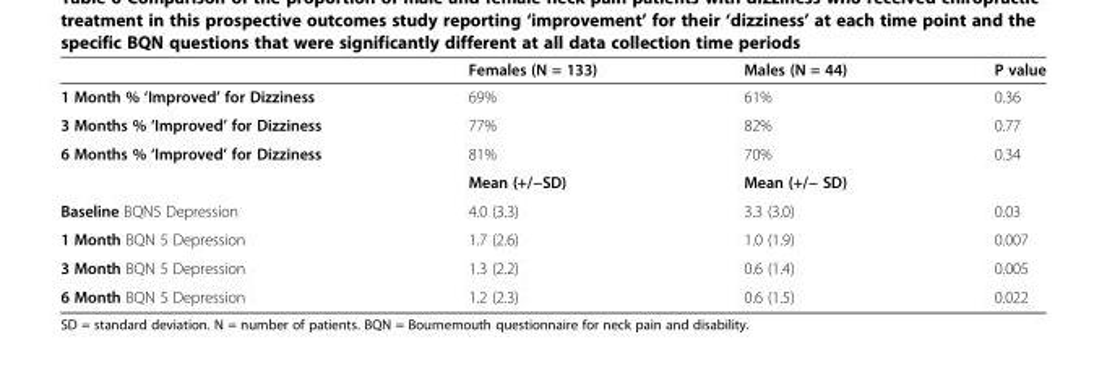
<table><thead><tr><td></td><td>Females (N = 133)</td><td>Males (N = 44)</td><td>P value</td></tr></thead><tbody><tr><td>1 Month % ‘Improved’ for Dizziness</td><td>69%</td><td>61%</td><td>0.36</td></tr><tr><td>3 Months % ‘Improved’ for Dizziness</td><td>77%</td><td>82%</td><td>0.77</td></tr><tr><td rowspan="2">6 Months % ‘Improved’ for Dizziness</td><td>81%</td><td>70%</td><td>0.34</td></tr><tr><td>Mean (+/−SD)</td><td>Mean (+/− SD)</td><td></td></tr><tr><td>Baseline BQN5 Depression</td><td>4.0 (3.3)</td><td>3.3 (3.0)</td><td>0.03</td></tr><tr><td>1 Month BQN 5 Depression</td><td>1.7 (2.6)</td><td>1.0 (1.9)</td><td>0.007</td></tr><tr><td>3 Month BQN 5 Depression</td><td>1.3 (2.2)</td><td>0.6 (1.4)</td><td>0.005</td></tr><tr><td>6 Month BQN 5 Depression</td><td>1.2 (2.3)</td><td>0.6 (1.5)</td><td>0.022</td></tr></tbody></table>